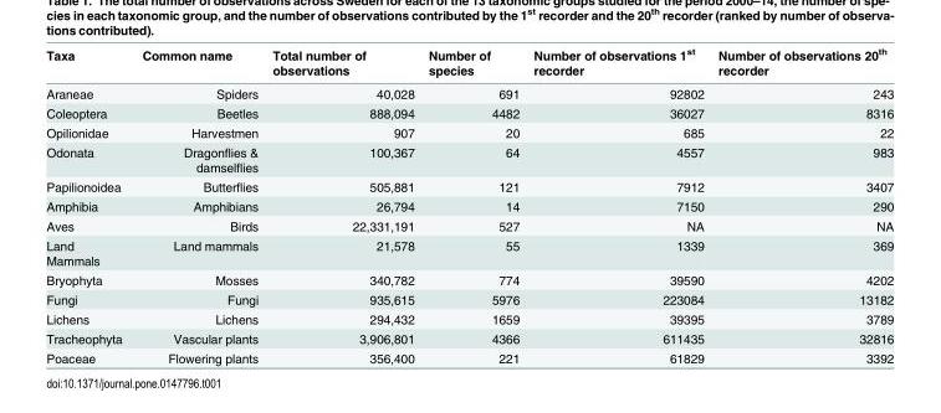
<table><thead><tr><td>Taxa</td><td>Common name</td><td>Total number of observations</td><td>Number of species</td><td>Number of observations 1<sup>st</sup> recorder</td><td>Number of observations 20<sup>th</sup> recorder</td></tr></thead><tbody><tr><td>Araneae</td><td>Spiders</td><td>40,028</td><td>691</td><td>92802</td><td>243</td></tr><tr><td>Coleoptera</td><td>Beetles</td><td>888,094</td><td>4482</td><td>36027</td><td>8316</td></tr><tr><td>Opilionidae</td><td>Harvestmen</td><td>907</td><td>20</td><td>685</td><td>22</td></tr><tr><td>Odonata</td><td>Dragonflies &amp; damselflies</td><td>100,367</td><td>64</td><td>4557</td><td>983</td></tr><tr><td>Papilionoidea</td><td>Butterflies</td><td>505,881</td><td>121</td><td>7912</td><td>3407</td></tr><tr><td>Amphibia</td><td>Amphibians</td><td>26,794</td><td>14</td><td>7150</td><td>290</td></tr><tr><td>Aves</td><td>Birds</td><td>22,331,191</td><td>527</td><td>NA</td><td>NA</td></tr><tr><td>Land Mammals</td><td>Land mammals</td><td>21,578</td><td>55</td><td>1339</td><td>369</td></tr><tr><td>Bryophyta</td><td>Mosses</td><td>340,782</td><td>774</td><td>39590</td><td>4202</td></tr><tr><td>Fungi</td><td>Fungi</td><td>935,615</td><td>5976</td><td>223084</td><td>13182</td></tr><tr><td>Lichens</td><td>Lichens</td><td>294,432</td><td>1659</td><td>39395</td><td>3789</td></tr><tr><td>Tracheophyta</td><td>Vascular plants</td><td>3,906,801</td><td>4366</td><td>611435</td><td>32816</td></tr><tr><td>Poaceae</td><td>Flowering plants</td><td>356,400</td><td>221</td><td>61829</td><td>3392</td></tr></tbody></table>